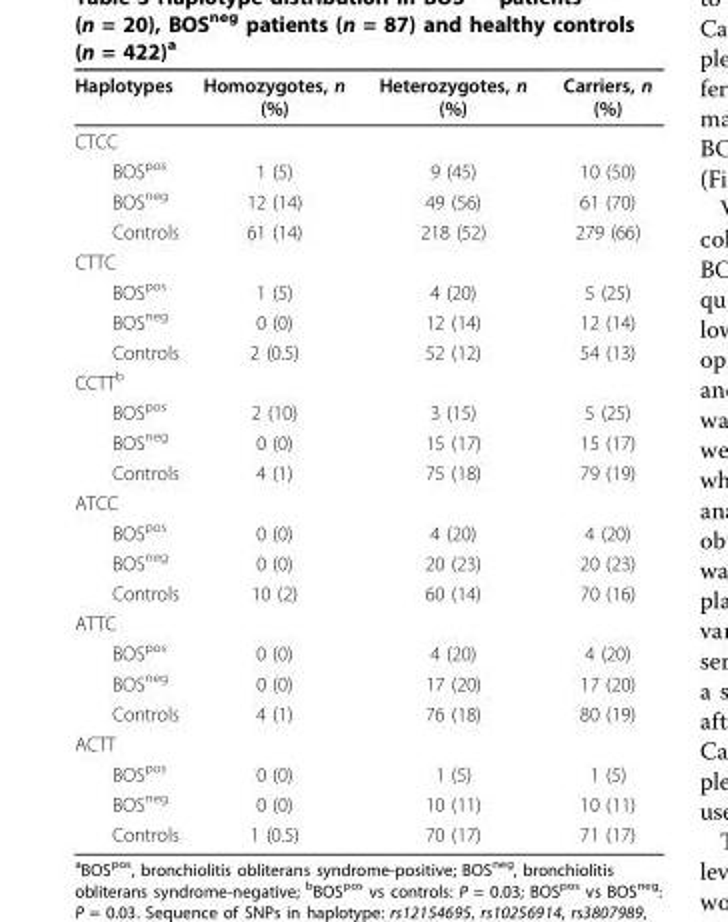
<table><thead><tr><td>Haplotypes</td><td>Homozygotes, n (%)</td><td>Heterozygotes, n (%)</td><td>Carriers, n (%)</td></tr></thead><tbody><tr><td colspan="4">CTCC</td></tr><tr><td>BOS<sup>pos</sup></td><td>1 (5)</td><td>9 (45)</td><td>10 (50)</td></tr><tr><td>BOS<sup>neg</sup></td><td>12 (14)</td><td>49 (56)</td><td>61 (70)</td></tr><tr><td>Controls</td><td>61 (14)</td><td>218 (52)</td><td>279 (66)</td></tr><tr><td colspan="4">CTTC</td></tr><tr><td>BOS<sup>pos</sup></td><td>1 (5)</td><td>4 (20)</td><td>5 (25)</td></tr><tr><td>BOS<sup>neg</sup></td><td>0 (0)</td><td>12 (14)</td><td>12 (14)</td></tr><tr><td>Controls</td><td>2 (0.5)</td><td>52 (12)</td><td>54 (13)</td></tr><tr><td colspan="4">CCTT<sup>b</sup></td></tr><tr><td>BOS<sup>pos</sup></td><td>2 (10)</td><td>3 (15)</td><td>5 (25)</td></tr><tr><td>BOS<sup>neg</sup></td><td>0 (0)</td><td>15 (17)</td><td>15 (17)</td></tr><tr><td>Controls</td><td>4 (1)</td><td>75 (18)</td><td>79 (19)</td></tr><tr><td colspan="4">ATCC</td></tr><tr><td>BOS<sup>pos</sup></td><td>0 (0)</td><td>4 (20)</td><td>4 (20)</td></tr><tr><td>BOS<sup>neg</sup></td><td>0 (0)</td><td>20 (23)</td><td>20 (23)</td></tr><tr><td>Controls</td><td>10 (2)</td><td>60 (14)</td><td>70 (16)</td></tr><tr><td colspan="4">ATTC</td></tr><tr><td>BOS<sup>pos</sup></td><td>0 (0)</td><td>4 (20)</td><td>4 (20)</td></tr><tr><td>BOS<sup>neg</sup></td><td>0 (0)</td><td>17 (20)</td><td>17 (20)</td></tr><tr><td>Controls</td><td>4 (1)</td><td>76 (18)</td><td>80 (19)</td></tr><tr><td colspan="4">ACTT</td></tr><tr><td>BOS<sup>pos</sup></td><td>0 (0)</td><td>1 (5)</td><td>1 (5)</td></tr><tr><td>BOS<sup>neg</sup></td><td>0 (0)</td><td>10 (11)</td><td>10 (11)</td></tr><tr><td>Controls</td><td>1 (0.5)</td><td>70 (17)</td><td>71 (17)</td></tr></tbody></table>